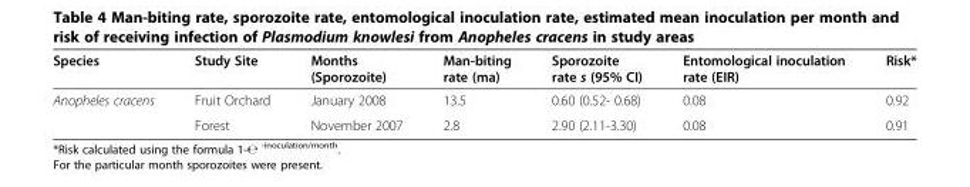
<table><thead><tr><td>Species</td><td>Study Site</td><td>Months (Sporozoite)</td><td>Man-biting rate (ma)</td><td>Sporozoite rate s (95% CI)</td><td>Entomological inoculation rate (EIR)</td><td>Risk*</td></tr></thead><tbody><tr><td rowspan="2">Anopheles cracens</td><td>Fruit Orchard</td><td>January 2008</td><td>13.5</td><td>0.60 (0.52- 0.68)</td><td>0.08</td><td>0.92</td></tr><tr><td>Forest</td><td>November 2007</td><td>2.8</td><td>2.90 (2.11-3.30)</td><td>0.08</td><td>0.91</td></tr></tbody></table>